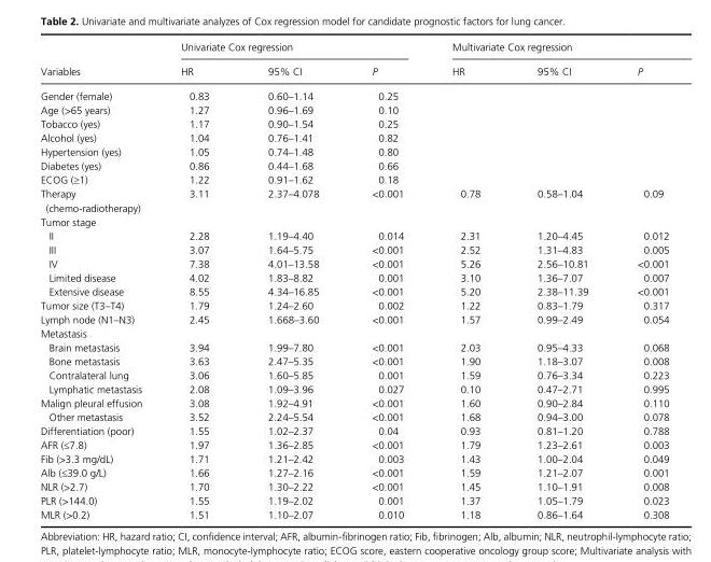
<table><thead><tr><td rowspan="2">Variables</td><td colspan="3">Univariate Cox regression</td><td colspan="3">Multivariate Cox regression</td></tr><tr><td>HR</td><td>95% CI</td><td>P</td><td>HR</td><td>95% CI</td><td>P</td></tr></thead><tbody><tr><td>Gender (female)</td><td>0.83</td><td>0.60–1.14</td><td>0.25</td><td></td><td></td><td></td></tr><tr><td>Age (&gt;65 years)</td><td>1.27</td><td>0.96–1.69</td><td>0.10</td><td></td><td></td><td></td></tr><tr><td>Tobacco (yes)</td><td>1.17</td><td>0.90–1.54</td><td>0.25</td><td></td><td></td><td></td></tr><tr><td>Alcohol (yes)</td><td>1.04</td><td>0.76–1.41</td><td>0.82</td><td></td><td></td><td></td></tr><tr><td>Hypertension (yes)</td><td>1.05</td><td>0.74–1.48</td><td>0.80</td><td></td><td></td><td></td></tr><tr><td>Diabetes (yes)</td><td>0.86</td><td>0.44–1.68</td><td>0.66</td><td></td><td></td><td></td></tr><tr><td>ECOG (≥1)</td><td>1.22</td><td>0.91–1.62</td><td>0.18</td><td></td><td></td><td></td></tr><tr><td>Therapy (chemo- radiotherapy)</td><td>3.11</td><td>2.37–4.078</td><td>&lt;0.001</td><td>0.78</td><td>0.58–1.04</td><td>0.09</td></tr><tr><td colspan="7">Tumor stage</td></tr><tr><td>II</td><td>2.28</td><td>1.19–4.40</td><td>0.014</td><td>2.31</td><td>1.20–4.45</td><td>0.012</td></tr><tr><td>III</td><td>3.07</td><td>1.64–5.75</td><td>&lt;0.001</td><td>2.52</td><td>1.31–4.83</td><td>0.005</td></tr><tr><td>IV</td><td>7.38</td><td>4.01–13.58</td><td>&lt;0.001</td><td>5.26</td><td>2.56–10.81</td><td>&lt;0.001</td></tr><tr><td>Limited disease</td><td>4.02</td><td>1.83–8.82</td><td>0.001</td><td>3.10</td><td>1.36–7.07</td><td>0.007</td></tr><tr><td>Extensive disease</td><td>8.55</td><td>4.34–16.85</td><td>&lt;0.001</td><td>5.20</td><td>2.38–11.39</td><td>&lt;0.001</td></tr><tr><td>Tumor size (T3–T4)</td><td>1.79</td><td>1.24–2.60</td><td>0.002</td><td>1.22</td><td>0.83–1.79</td><td>0.317</td></tr><tr><td>Lymph node (N1–N3)</td><td>2.45</td><td>1.668–3.60</td><td>&lt;0.001</td><td>1.57</td><td>0.99–2.49</td><td>0.054</td></tr><tr><td colspan="7">Metastasis</td></tr><tr><td>Brain metastasis</td><td>3.94</td><td>1.99–7.80</td><td>&lt;0.001</td><td>2.03</td><td>0.95–4.33</td><td>0.068</td></tr><tr><td>Bone metastasis</td><td>3.63</td><td>2.47–5.35</td><td>&lt;0.001</td><td>1.90</td><td>1.18–3.07</td><td>0.008</td></tr><tr><td>Contralateral lung</td><td>3.06</td><td>1.60–5.85</td><td>0.001</td><td>1.59</td><td>0.76–3.34</td><td>0.223</td></tr><tr><td>Lymphatic metastasis</td><td>2.08</td><td>1.09–3.96</td><td>0.027</td><td>0.10</td><td>0.47–2.71</td><td>0.995</td></tr><tr><td>Malign pleural effusion</td><td>3.08</td><td>1.92–4.91</td><td>&lt;0.001</td><td>1.60</td><td>0.90–2.84</td><td>0.110</td></tr><tr><td>Other metastasis</td><td>3.52</td><td>2.24–5.54</td><td>&lt;0.001</td><td>1.68</td><td>0.94–3.00</td><td>0.078</td></tr><tr><td>Differentiation (poor)</td><td>1.55</td><td>1.02–2.37</td><td>0.04</td><td>0.93</td><td>0.81–1.20</td><td>0.788</td></tr><tr><td>AFR (≤7.8)</td><td>1.97</td><td>1.36–2.85</td><td>&lt;0.001</td><td>1.79</td><td>1.23–2.61</td><td>0.003</td></tr><tr><td>Fib (&gt;3.3 mg/dL)</td><td>1.71</td><td>1.21–2.42</td><td>0.003</td><td>1.43</td><td>1.00–2.04</td><td>0.049</td></tr><tr><td>Alb (≤39.0 g/L)</td><td>1.66</td><td>1.27–2.16</td><td>&lt;0.001</td><td>1.59</td><td>1.21–2.07</td><td>0.001</td></tr><tr><td>NLR (&gt;2.7)</td><td>1.70</td><td>1.30–2.22</td><td>&lt;0.001</td><td>1.45</td><td>1.10–1.91</td><td>0.008</td></tr><tr><td>PLR (&gt;144.0)</td><td>1.55</td><td>1.19–2.02</td><td>0.001</td><td>1.37</td><td>1.05–1.79</td><td>0.023</td></tr><tr><td>MLR (&gt;0.2)</td><td>1.51</td><td>1.10–2.07</td><td>0.010</td><td>1.18</td><td>0.86–1.64</td><td>0.308</td></tr></tbody></table>